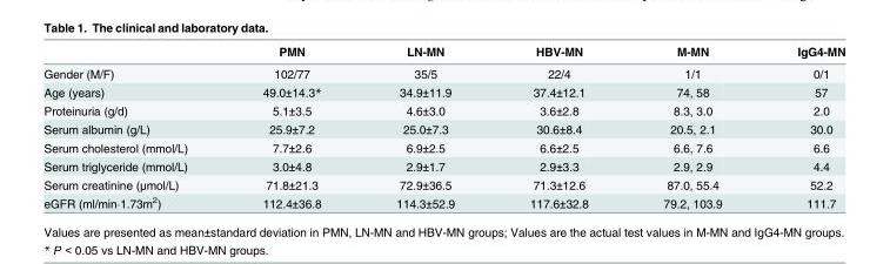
<table><thead><tr><td></td><td>PMN</td><td>LN-MN</td><td>HBV-MN</td><td>M-MN</td><td>IgG4-MN</td></tr></thead><tbody><tr><td>Gender (M/F)</td><td>102/77</td><td>35/5</td><td>22/4</td><td>1/1</td><td>0/1</td></tr><tr><td>Age (years)</td><td>49.0±14.3*</td><td>34.9±11.9</td><td>37.4±12.1</td><td>74, 58</td><td>57</td></tr><tr><td>Proteinuria (g/d)</td><td>5.1±3.5</td><td>4.6±3.0</td><td>3.6±2.8</td><td>8.3, 3.0</td><td>2.0</td></tr><tr><td>Serum albumin (g/L)</td><td>25.9±7.2</td><td>25.0±7.3</td><td>30.6±8.4</td><td>20.5, 2.1</td><td>30.0</td></tr><tr><td>Serum cholesterol (mmol/L)</td><td>7.7±2.6</td><td>6.9±2.5</td><td>6.6±2.5</td><td>6.6, 7.6</td><td>6.6</td></tr><tr><td>Serum triglyceride (mmol/L)</td><td>3.0±4.8</td><td>2.9±1.7</td><td>2.9±3.3</td><td>2.9, 2.9</td><td>4.4</td></tr><tr><td>Serum creatinine (μmol/L)</td><td>71.8±21.3</td><td>72.9±36.5</td><td>71.3±12.6</td><td>87.0, 55.4</td><td>52.2</td></tr><tr><td>eGFR (ml/min·1.73m<sup>2</sup>)</td><td>112.4±36.8</td><td>114.3±52.9</td><td>117.6±32.8</td><td>79.2, 103.9</td><td>111.7</td></tr></tbody></table>